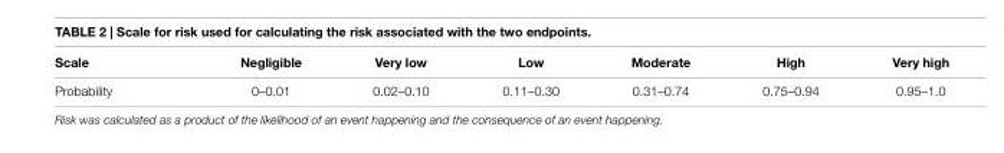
<table><thead><tr><td>scale</td><td>negligible</td><td>Very low</td><td>low</td><td>Moderate</td><td>high</td><td>Very high</td></tr></thead><tbody><tr><td>Probability</td><td>0–0.01</td><td>0.02–0.10</td><td>0.11–0.30</td><td>0.31–0.74</td><td>0.75–0.94</td><td>0.95–1.0</td></tr></tbody></table>